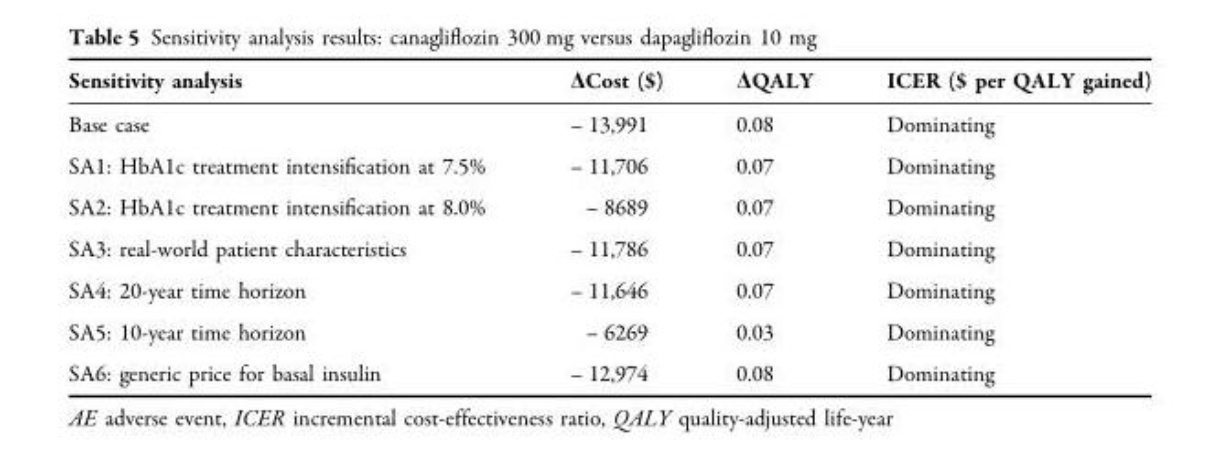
<table><thead><tr><td>Sensitivity analysis</td><td>ΔCost ($)</td><td>ΔQALY</td><td>ICER ($ per QALY gained)</td></tr></thead><tbody><tr><td>Base case</td><td>– 13,991</td><td>0.08</td><td>Dominating</td></tr><tr><td>SA1: HbA1c treatment intensification at 7.5%</td><td>– 11,706</td><td>0.07</td><td>Dominating</td></tr><tr><td>SA2: HbA1c treatment intensification at 8.0%</td><td>– 8689</td><td>0.07</td><td>Dominating</td></tr><tr><td>SA3: real-world patient characteristics</td><td>– 11,786</td><td>0.07</td><td>Dominating</td></tr><tr><td>SA4: 20-year time horizon</td><td>– 11,646</td><td>0.07</td><td>Dominating</td></tr><tr><td>SA5: 10-year time horizon</td><td>– 6269</td><td>0.03</td><td>Dominating</td></tr><tr><td>SA6: generic price for basal insulin</td><td>– 12,974</td><td>0.08</td><td>Dominating</td></tr></tbody></table>